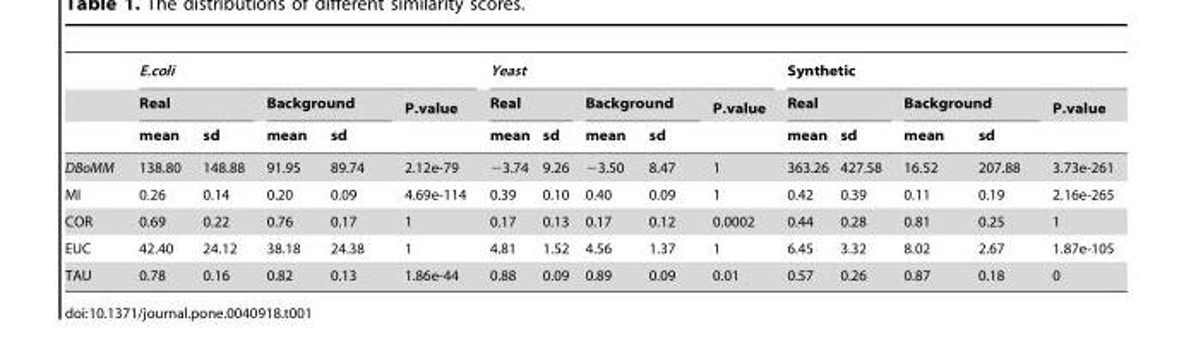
<table><thead><tr><td rowspan="3"></td><td colspan="5">E.coli</td><td colspan="5">Yeast</td><td colspan="5">Synthetic</td></tr><tr><td colspan="2">Real</td><td colspan="2">Background</td><td rowspan="2">P.value</td><td colspan="2">Real</td><td colspan="2">Background</td><td rowspan="2">P.value</td><td colspan="2">Real</td><td colspan="2">Background</td><td rowspan="2">P.value</td></tr><tr><td>mean</td><td>sd</td><td>mean</td><td>sd</td><td>mean</td><td>sd</td><td>mean</td><td>sd</td><td>mean</td><td>sd</td><td>mean</td><td>sd</td></tr></thead><tbody><tr><td>DBoMM</td><td>138.80</td><td>148.88</td><td>91.95</td><td>89.74</td><td>2.12e-79</td><td>−3.74</td><td>9.26</td><td>−3.50</td><td>8.47</td><td>1</td><td>363.26</td><td>427.58</td><td>16.52</td><td>207.88</td><td>3.73e-261</td></tr><tr><td>MI</td><td>0.26</td><td>0.14</td><td>0.20</td><td>0.09</td><td>4.69e-114</td><td>0.39</td><td>0.10</td><td>0.40</td><td>0.09</td><td>1</td><td>0.42</td><td>0.39</td><td>0.11</td><td>0.19</td><td>2.16e-265</td></tr><tr><td>COR</td><td>0.69</td><td>0.22</td><td>0.76</td><td>0.17</td><td>1</td><td>0.17</td><td>0.13</td><td>0.17</td><td>0.12</td><td>0.0002</td><td>0.44</td><td>0.28</td><td>0.81</td><td>0.25</td><td>1</td></tr><tr><td>EUC</td><td>42.40</td><td>24.12</td><td>38.18</td><td>24.38</td><td>1</td><td>4.81</td><td>1.52</td><td>4.56</td><td>1.37</td><td>1</td><td>6.45</td><td>3.32</td><td>8.02</td><td>2.67</td><td>1.87e-105</td></tr><tr><td>TAU</td><td>0.78</td><td>0.16</td><td>0.82</td><td>0.13</td><td>1.86e-44</td><td>0.88</td><td>0.09</td><td>0.89</td><td>0.09</td><td>0.01</td><td>0.57</td><td>0.26</td><td>0.87</td><td>0.18</td><td>0</td></tr></tbody></table>